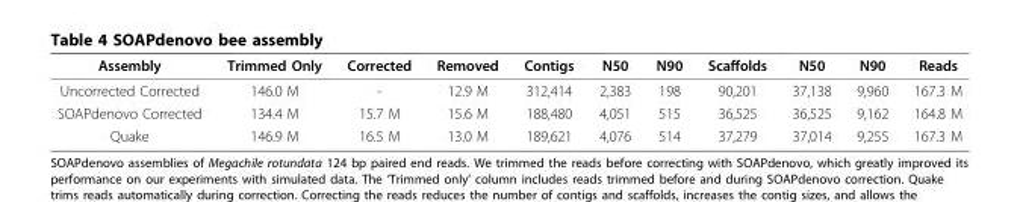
<table><thead><tr><td>Assembly</td><td>Trimmed Only</td><td>Corrected</td><td>Removed</td><td>Contigs</td><td>N50</td><td>N90</td><td>Scaffolds</td><td>N50</td><td>N90</td><td>Reads</td></tr></thead><tbody><tr><td>Uncorrected Corrected</td><td>146.0 M</td><td>-</td><td>12.9 M</td><td>312,414</td><td>2,383</td><td>198</td><td>90,201</td><td>37,138</td><td>9,960</td><td>167.3 M</td></tr><tr><td>SOAPdenovo Corrected</td><td>134.4 M</td><td>15.7 M</td><td>15.6 M</td><td>188,480</td><td>4,051</td><td>515</td><td>36,525</td><td>36,525</td><td>9,162</td><td>164.8 M</td></tr><tr><td>Quake</td><td>146.9 M</td><td>16.5 M</td><td>13.0 M</td><td>189,621</td><td>4,076</td><td>514</td><td>37,279</td><td>37,014</td><td>9,255</td><td>167.3 M</td></tr></tbody></table>